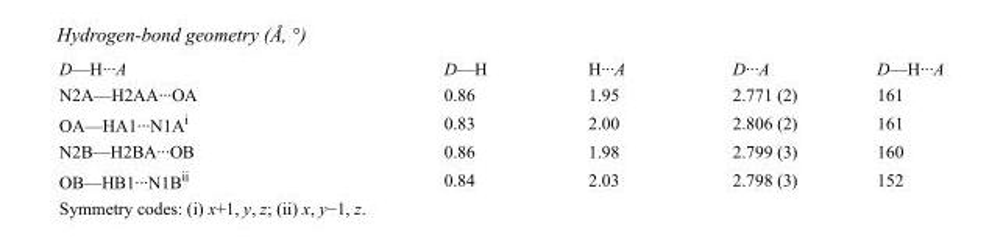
<table><tbody><tr><td>D—H···A</td><td>D—H</td><td>H···A</td><td>D···A</td><td>D—H···A</td></tr><tr><td>N2A—H2AA···OA</td><td>0.86</td><td>1.95</td><td>2.771 (2)</td><td>161</td></tr><tr><td>OA—HA1···N1A<sup>i</sup></td><td>0.83</td><td>2.00</td><td>2.806 (2)</td><td>161</td></tr><tr><td>N2B—H2BA···OB</td><td>0.86</td><td>1.98</td><td>2.799 (3)</td><td>160</td></tr><tr><td>OB—HB1···N1B<sup>ii</sup></td><td>0.84</td><td>2.03</td><td>2.798 (3)</td><td>152</td></tr></tbody></table>